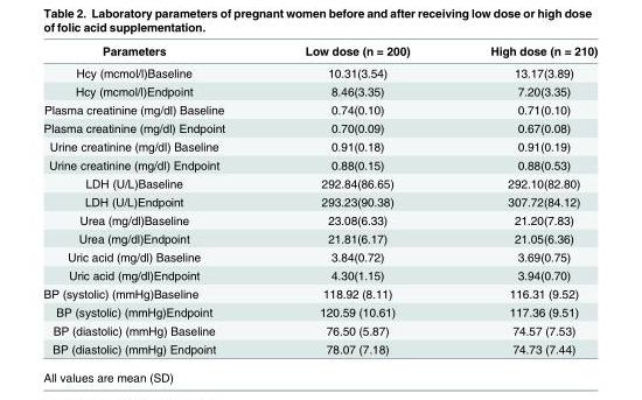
<table><thead><tr><td>Parameters</td><td>Low dose (n = 200)</td><td>High dose (n = 210)</td></tr></thead><tbody><tr><td>Hcy (mcmol/l)Baseline</td><td>10.31(3.54)</td><td>13.17(3.89)</td></tr><tr><td>Hcy (mcmol/l)Endpoint</td><td>8.46(3.35)</td><td>7.20(3.35)</td></tr><tr><td>Plasma creatinine (mg/dl) Baseline</td><td>0.74(0.10)</td><td>0.71(0.10)</td></tr><tr><td>Plasma creatinine (mg/dl) Endpoint</td><td>0.70(0.09)</td><td>0.67(0.08)</td></tr><tr><td>Urine creatinine (mg/dl) Baseline</td><td>0.91(0.18)</td><td>0.91(0.19)</td></tr><tr><td>Urine creatinine (mg/dl) Endpoint</td><td>0.88(0.15)</td><td>0.88(0.53)</td></tr><tr><td>LDH (U/L)Baseline</td><td>292.84(86.65)</td><td>292.10(82.80)</td></tr><tr><td>LDH (U/L)Endpoint</td><td>293.23(90.38)</td><td>307.72(84.12)</td></tr><tr><td>Urea (mg/dl)Baseline</td><td>23.08(6.33)</td><td>21.20(7.83)</td></tr><tr><td>Urea (mg/dl)Endpoint</td><td>21.81(6.17)</td><td>21.05(6.36)</td></tr><tr><td>Uric acid (mg/dl) Baseline</td><td>3.84(0.72)</td><td>3.69(0.75)</td></tr><tr><td>Uric acid (mg/dl)Endpoint</td><td>4.30(1.15)</td><td>3.94(0.70)</td></tr><tr><td>BP (systolic) (mmHg)Baseline</td><td>118.92 (8.11)</td><td>116.31 (9.52)</td></tr><tr><td>BP (systolic) (mmHg)Endpoint</td><td>120.59 (10.61)</td><td>117.36 (9.51)</td></tr><tr><td>BP (diastolic) (mmHg) Baseline</td><td>76.50 (5.87)</td><td>74.57 (7.53)</td></tr><tr><td>BP (diastolic) (mmHg) Endpoint</td><td>78.07 (7.18)</td><td>74.73 (7.44)</td></tr></tbody></table>